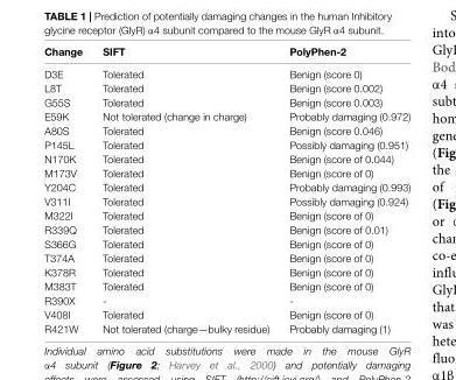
<table><thead><tr><td>Change</td><td>SIFT</td><td>PolyPhen-2</td></tr></thead><tbody><tr><td>D3E</td><td>Tolerated</td><td>Benign (score 0)</td></tr><tr><td>L8T</td><td>Tolerated</td><td>Benign (score 0.002)</td></tr><tr><td>G55S</td><td>Tolerated</td><td>Benign (score 0.003)</td></tr><tr><td>E59K</td><td>Not tolerated (change in charge)</td><td>Probably damaging (0.972)</td></tr><tr><td>A80S</td><td>Tolerated</td><td>Benign (score 0.046)</td></tr><tr><td>P145L</td><td>Tolerated</td><td>Possibly damaging (0.951)</td></tr><tr><td>N170K</td><td>Tolerated</td><td>Benign (score of 0.044)</td></tr><tr><td>M173V</td><td>Tolerated</td><td>Benign (score of 0)</td></tr><tr><td>Y204C</td><td>Tolerated</td><td>Probably damaging (0.993)</td></tr><tr><td>V311I</td><td>Tolerated</td><td>Possibly damaging (0.924)</td></tr><tr><td>M322I</td><td>Tolerated</td><td>Benign (score of 0)</td></tr><tr><td>R339Q</td><td>Tolerated</td><td>Benign (score of 0.01)</td></tr><tr><td>S366G</td><td>Tolerated</td><td>Benign (score of 0)</td></tr><tr><td>T374A</td><td>Tolerated</td><td>Benign (score of 0)</td></tr><tr><td>K378R</td><td>Tolerated</td><td>Benign (score of 0)</td></tr><tr><td>M383T</td><td>Tolerated</td><td>Benign (score of 0)</td></tr><tr><td>R390X</td><td>-</td><td>-</td></tr><tr><td>V408I</td><td>Tolerated</td><td>Benign (score of 0)</td></tr><tr><td>R421W</td><td>Not tolerated (charge—bulky residue)</td><td>Probably damaging (1)</td></tr></tbody></table>